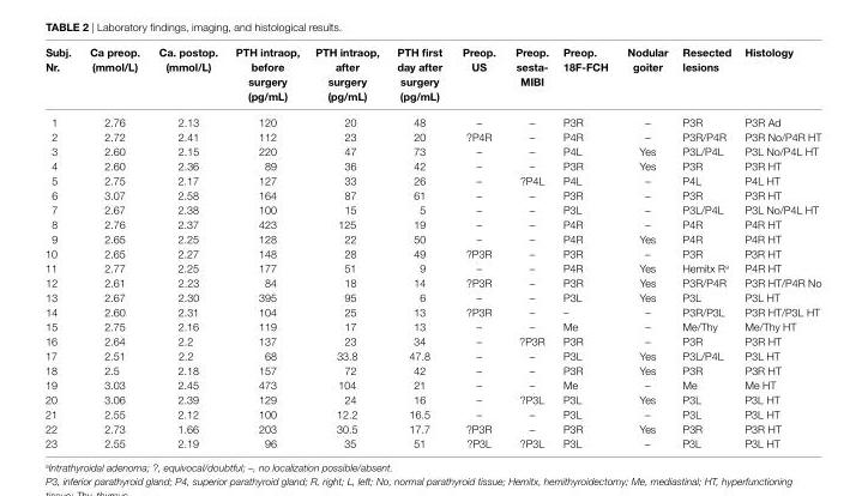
<table><thead><tr><td>subj. nr.</td><td>ca preop. (mmol/l)</td><td>ca. postop. (mmol/l)</td><td>PTh intraop, before surgery (pg/ml)</td><td>PTh intraop, after surgery (pg/ml)</td><td>PTh first day after surgery (pg/ml)</td><td>Preop. Us</td><td>Preop. sesta- MiBi</td><td>Preop. 18F-Fch</td><td>nodular goiter</td><td>resected lesions</td><td>histology</td></tr></thead><tbody><tr><td>1</td><td>2.76</td><td>2.13</td><td>120</td><td>20</td><td>48</td><td>–</td><td>–</td><td>P3R</td><td>–</td><td>P3R</td><td>P3R Ad</td></tr><tr><td>2</td><td>2.72</td><td>2.41</td><td>112</td><td>23</td><td>20</td><td>?P4R</td><td>–</td><td>P4R</td><td>–</td><td>P3R/P4R</td><td>P3R No/P4R HT</td></tr><tr><td>3</td><td>2.60</td><td>2.15</td><td>220</td><td>47</td><td>73</td><td>–</td><td>–</td><td>P4L</td><td>Yes</td><td>P3L/P4L</td><td>P3L No/P4L HT</td></tr><tr><td>4</td><td>2.60</td><td>2.36</td><td>89</td><td>36</td><td>42</td><td>–</td><td>–</td><td>P3R</td><td>Yes</td><td>P3R</td><td>P3R HT</td></tr><tr><td>5</td><td>2.75</td><td>2.17</td><td>127</td><td>33</td><td>26</td><td>–</td><td>?P4L</td><td>P4L</td><td>–</td><td>P4L</td><td>P4L HT</td></tr><tr><td>6</td><td>3.07</td><td>2.58</td><td>164</td><td>87</td><td>61</td><td>–</td><td>–</td><td>P3R</td><td>–</td><td>P3R</td><td>P3R HT</td></tr><tr><td>7</td><td>2.67</td><td>2.38</td><td>100</td><td>15</td><td>5</td><td>–</td><td>–</td><td>P3L</td><td>–</td><td>P3L/P4L</td><td>P3L No/P4L HT</td></tr><tr><td>8</td><td>2.76</td><td>2.37</td><td>423</td><td>125</td><td>19</td><td>–</td><td>–</td><td>P4R</td><td>–</td><td>P4R</td><td>P4R HT</td></tr><tr><td>9</td><td>2.65</td><td>2.25</td><td>128</td><td>22</td><td>50</td><td>–</td><td>–</td><td>P4R</td><td>Yes</td><td>P4R</td><td>P4R HT</td></tr><tr><td>10</td><td>2.65</td><td>2.27</td><td>148</td><td>28</td><td>49</td><td>?P3R</td><td>–</td><td>P3R</td><td>–</td><td>P3R</td><td>P3R HT</td></tr><tr><td>11</td><td>2.77</td><td>2.25</td><td>177</td><td>51</td><td>9</td><td>–</td><td>–</td><td>P4R</td><td>Yes</td><td>Hemitx R<sup>a</sup></td><td>P4R HT</td></tr><tr><td>12</td><td>2.61</td><td>2.23</td><td>84</td><td>18</td><td>14</td><td>?P3R</td><td>–</td><td>P3R</td><td>Yes</td><td>P3R/P4R</td><td>P3R HT/P4R No</td></tr><tr><td>13</td><td>2.67</td><td>2.30</td><td>395</td><td>95</td><td>6</td><td>–</td><td>–</td><td>P3L</td><td>Yes</td><td>P3L</td><td>P3L HT</td></tr><tr><td>14</td><td>2.60</td><td>2.31</td><td>104</td><td>25</td><td>13</td><td>?P3R</td><td>–</td><td>–</td><td>–</td><td>P3R/P3L</td><td>P3R HT/P3L HT</td></tr><tr><td>15</td><td>2.75</td><td>2.16</td><td>119</td><td>17</td><td>13</td><td>–</td><td>–</td><td>Me</td><td>–</td><td>Me/Thy</td><td>Me/Thy HT</td></tr><tr><td>16</td><td>2.64</td><td>2.2</td><td>137</td><td>23</td><td>34</td><td>–</td><td>?P3R</td><td>P3R</td><td>–</td><td>P3R</td><td>P3R HT</td></tr><tr><td>17</td><td>2.51</td><td>2.2</td><td>68</td><td>33.8</td><td>47.8</td><td>–</td><td>–</td><td>P3L</td><td>Yes</td><td>P3L/P4L</td><td>P3L HT</td></tr><tr><td>18</td><td>2.5</td><td>2.18</td><td>157</td><td>72</td><td>42</td><td>–</td><td>–</td><td>P3R</td><td>Yes</td><td>P3R</td><td>P3R HT</td></tr><tr><td>19</td><td>3.03</td><td>2.45</td><td>473</td><td>104</td><td>21</td><td>–</td><td>–</td><td>Me</td><td>–</td><td>Me</td><td>Me HT</td></tr><tr><td>20</td><td>3.06</td><td>2.39</td><td>129</td><td>24</td><td>16</td><td>–</td><td>?P3L</td><td>P3L</td><td>Yes</td><td>P3L</td><td>P3L HT</td></tr><tr><td>21</td><td>2.55</td><td>2.12</td><td>100</td><td>12.2</td><td>16.5</td><td>–</td><td>–</td><td>P3L</td><td>–</td><td>P3L</td><td>P3L HT</td></tr><tr><td>22</td><td>2.73</td><td>1.66</td><td>203</td><td>30.5</td><td>17.7</td><td>?P3R</td><td>–</td><td>P3R</td><td>Yes</td><td>P3R</td><td>P3R HT</td></tr><tr><td>23</td><td>2.55</td><td>2.19</td><td>96</td><td>35</td><td>51</td><td>?P3L</td><td>?P3L</td><td>P3L</td><td>–</td><td>P3L</td><td>P3L HT</td></tr></tbody></table>